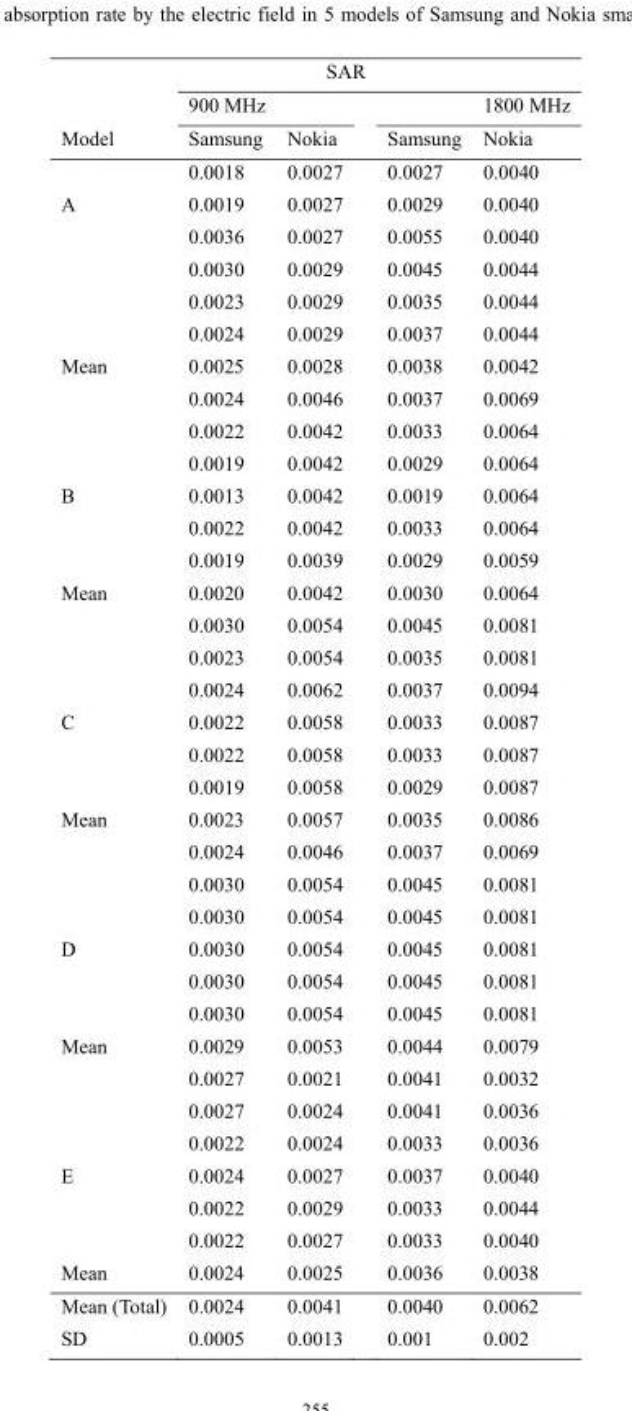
<table><thead><tr><td rowspan="3">Model</td><td colspan="4">SAR</td></tr><tr><td colspan="3">900 MHz</td><td rowspan="2">1800 MHz Nokia</td></tr><tr><td>Samsung</td><td>Nokia</td><td>Samsung</td></tr></thead><tbody><tr><td></td><td>0.0018</td><td>0.0027</td><td>0.0027</td><td>0.0040</td></tr><tr><td rowspan="5">A</td><td>0.0019</td><td>0.0027</td><td>0.0029</td><td>0.0040</td></tr><tr><td>0.0036</td><td>0.0027</td><td>0.0055</td><td>0.0040</td></tr><tr><td>0.0030</td><td>0.0029</td><td>0.0045</td><td>0.0044</td></tr><tr><td>0.0023</td><td>0.0029</td><td>0.0035</td><td>0.0044</td></tr><tr><td>0.0024</td><td>0.0029</td><td>0.0037</td><td>0.0044</td></tr><tr><td rowspan="4">Mean</td><td>0.0025</td><td>0.0028</td><td>0.0038</td><td>0.0042</td></tr><tr><td>0.0024</td><td>0.0046</td><td>0.0037</td><td>0.0069</td></tr><tr><td>0.0022</td><td>0.0042</td><td>0.0033</td><td>0.0064</td></tr><tr><td>0.0019</td><td>0.0042</td><td>0.0029</td><td>0.0064</td></tr><tr><td rowspan="3">B</td><td>0.0013</td><td>0.0042</td><td>0.0019</td><td>0.0064</td></tr><tr><td>0.0022</td><td>0.0042</td><td>0.0033</td><td>0.0064</td></tr><tr><td>0.0019</td><td>0.0039</td><td>0.0029</td><td>0.0059</td></tr><tr><td rowspan="4">Mean</td><td>0.0020</td><td>0.0042</td><td>0.0030</td><td>0.0064</td></tr><tr><td>0.0030</td><td>0.0054</td><td>0.0045</td><td>0.0081</td></tr><tr><td>0.0023</td><td>0.0054</td><td>0.0035</td><td>0.0081</td></tr><tr><td>0.0024</td><td>0.0062</td><td>0.0037</td><td>0.0094</td></tr><tr><td rowspan="3">C</td><td>0.0022</td><td>0.0058</td><td>0.0033</td><td>0.0087</td></tr><tr><td>0.0022</td><td>0.0058</td><td>0.0033</td><td>0.0087</td></tr><tr><td>0.0019</td><td>0.0058</td><td>0.0029</td><td>0.0087</td></tr><tr><td rowspan="2">Mean</td><td>0.0023</td><td>0.0057</td><td>0.0035</td><td>0.0086</td></tr><tr><td>0.0024</td><td>0.0046</td><td>0.0037</td><td>0.0069</td></tr><tr><td rowspan="5">D</td><td>0.0030</td><td>0.0054</td><td>0.0045</td><td>0.0081</td></tr><tr><td>0.0030</td><td>0.0054</td><td>0.0045</td><td>0.0081</td></tr><tr><td>0.0030</td><td>0.0054</td><td>0.0045</td><td>0.0081</td></tr><tr><td>0.0030</td><td>0.0054</td><td>0.0045</td><td>0.0081</td></tr><tr><td>0.0030</td><td>0.0054</td><td>0.0045</td><td>0.0081</td></tr><tr><td rowspan="2">Mean</td><td>0.0029</td><td>0.0053</td><td>0.0044</td><td>0.0079</td></tr><tr><td>0.0027</td><td>0.0021</td><td>0.0041</td><td>0.0032</td></tr><tr><td rowspan="5">E</td><td>0.0027</td><td>0.0024</td><td>0.0041</td><td>0.0036</td></tr><tr><td>0.0022</td><td>0.0024</td><td>0.0033</td><td>0.0036</td></tr><tr><td>0.0024</td><td>0.0027</td><td>0.0037</td><td>0.0040</td></tr><tr><td>0.0022</td><td>0.0029</td><td>0.0033</td><td>0.0044</td></tr><tr><td>0.0022</td><td>0.0027</td><td>0.0033</td><td>0.0040</td></tr><tr><td>Mean</td><td>0.0024</td><td>0.0025</td><td>0.0036</td><td>0.0038</td></tr><tr><td>Mean (Total)</td><td>0.0024</td><td>0.0041</td><td>0.0040</td><td>0.0062</td></tr><tr><td>SD</td><td>0.0005</td><td>0.0013</td><td>0.001</td><td>0.002</td></tr></tbody></table>